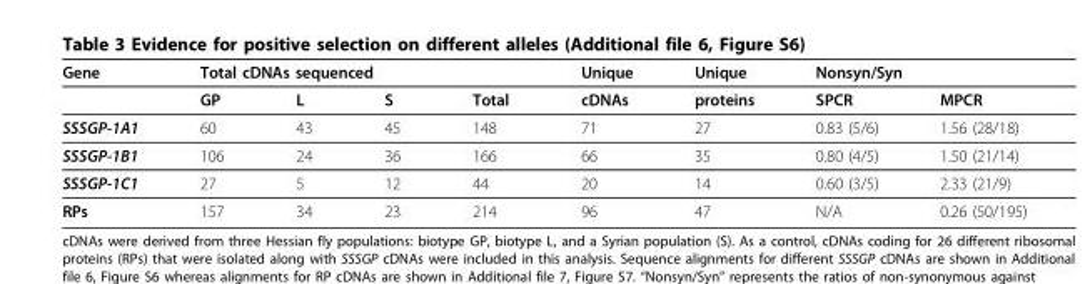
<table><thead><tr><td rowspan="2">Gene</td><td colspan="4">Total cDNAs sequenced</td><td rowspan="2">Unique cDNAs</td><td rowspan="2">Unique proteins</td><td colspan="2">Nonsyn/Syn</td></tr><tr><td>GP</td><td>L</td><td>S</td><td>Total</td><td>SPCR</td><td>MPCR</td></tr></thead><tbody><tr><td>SSSGP-1A1</td><td>60</td><td>43</td><td>45</td><td>148</td><td>71</td><td>27</td><td>0.83 (5/6)</td><td>1.56 (28/18)</td></tr><tr><td>SSSGP-1B1</td><td>106</td><td>24</td><td>36</td><td>166</td><td>66</td><td>35</td><td>0.80 (4/5)</td><td>1.50 (21/14)</td></tr><tr><td>SSSGP-1C1</td><td>27</td><td>5</td><td>12</td><td>44</td><td>20</td><td>14</td><td>0.60 (3/5)</td><td>2.33 (21/9)</td></tr><tr><td>RPs</td><td>157</td><td>34</td><td>23</td><td>214</td><td>96</td><td>47</td><td>N/A</td><td>0.26 (50/195)</td></tr></tbody></table>